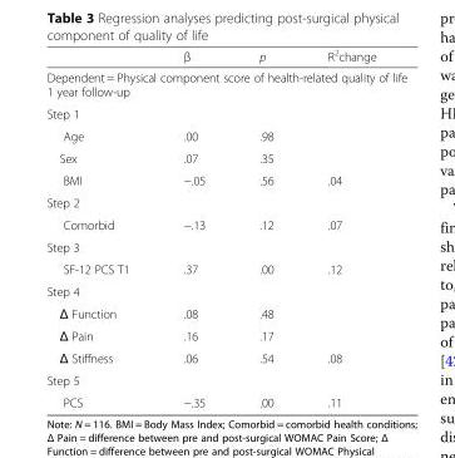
<table><thead><tr><td></td><td>β</td><td>p</td><td>R<sup>2</sup>change</td></tr></thead><tbody><tr><td colspan="4">Dependent = Physical component score of health-related quality of life 1 year follow-up</td></tr><tr><td colspan="4">Step 1</td></tr><tr><td>Age</td><td>.00</td><td>.98</td><td></td></tr><tr><td>Sex</td><td>.07</td><td>.35</td><td></td></tr><tr><td>BMI</td><td>−.05</td><td>.56</td><td>.04</td></tr><tr><td colspan="4">Step 2</td></tr><tr><td>Comorbid</td><td>−.13</td><td>.12</td><td>.07</td></tr><tr><td colspan="4">Step 3</td></tr><tr><td>SF-12 PCS T1</td><td>.37</td><td>.00</td><td>.12</td></tr><tr><td colspan="4">Step 4</td></tr><tr><td>Δ Function</td><td>.08</td><td>.48</td><td></td></tr><tr><td>Δ Pain</td><td>.16</td><td>.17</td><td></td></tr><tr><td>Δ Stiffness</td><td>.06</td><td>.54</td><td>.08</td></tr><tr><td colspan="4">Step 5</td></tr><tr><td>PCS</td><td>−.35</td><td>.00</td><td>.11</td></tr></tbody></table>